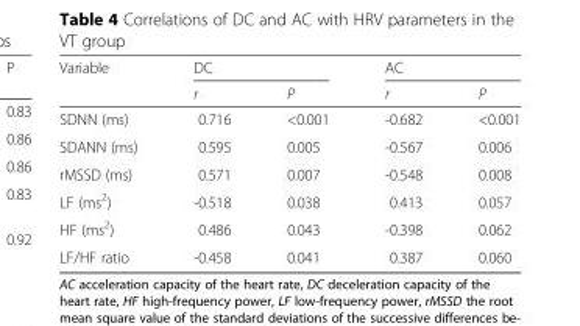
<table><thead><tr><td rowspan="2">Variable</td><td colspan="2">DC</td><td colspan="2">AC</td></tr><tr><td>r</td><td>P</td><td>r</td><td>P</td></tr></thead><tbody><tr><td>SDNN (ms)</td><td>0.716</td><td>&lt;0.001</td><td>-0.682</td><td>&lt;0.001</td></tr><tr><td>SDANN (ms)</td><td>0.595</td><td>0.005</td><td>-0.567</td><td>0.006</td></tr><tr><td>rMSSD (ms)</td><td>0.571</td><td>0.007</td><td>-0.548</td><td>0.008</td></tr><tr><td>LF (ms<sup>2</sup>)</td><td>-0.518</td><td>0.038</td><td>0.413</td><td>0.057</td></tr><tr><td>HF (ms<sup>2</sup>)</td><td>0.486</td><td>0.043</td><td>-0.398</td><td>0.062</td></tr><tr><td>LF/HF ratio</td><td>-0.458</td><td>0.041</td><td>0.387</td><td>0.060</td></tr></tbody></table>